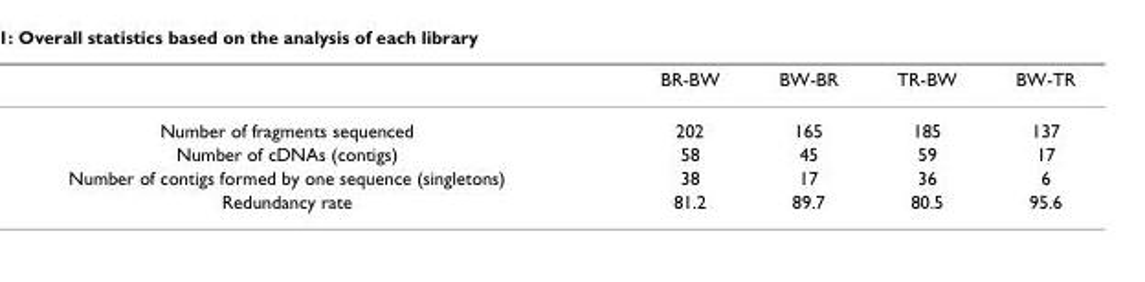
<table><thead><tr><td></td><td>BR-BW</td><td>BW-BR</td><td>TR-BW</td><td>BW-TR</td></tr></thead><tbody><tr><td>Number of fragments sequenced</td><td>202</td><td>165</td><td>185</td><td>137</td></tr><tr><td>Number of cDNAs (contigs)</td><td>58</td><td>45</td><td>59</td><td>17</td></tr><tr><td>Number of contigs formed by one sequence (singletons)</td><td>38</td><td>17</td><td>36</td><td>6</td></tr><tr><td>Redundancy rate</td><td>81.2</td><td>89.7</td><td>80.5</td><td>95.6</td></tr></tbody></table>